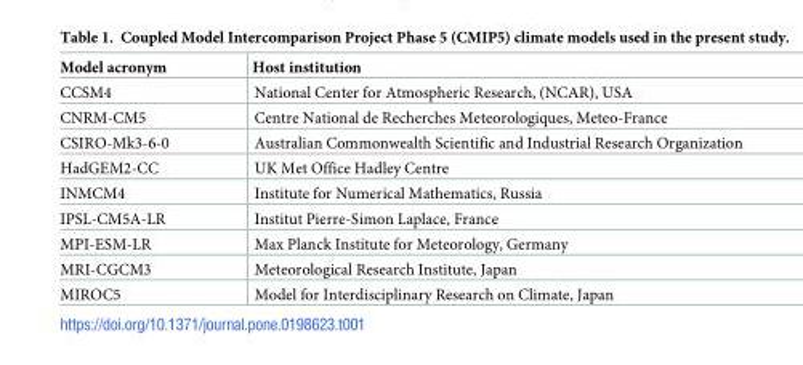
<table><thead><tr><td>Model acronym</td><td>Host institution</td></tr></thead><tbody><tr><td>CCSM4</td><td>National Center for Atmospheric Research, (NCAR), USA</td></tr><tr><td>CNRM-CM5</td><td>Centre National de Recherches Meteorologiques, Meteo-France</td></tr><tr><td>CSIRO-Mk3-6-0</td><td>Australian Commonwealth Scientific and Industrial Research Organization</td></tr><tr><td>HadGEM2-CC</td><td>UK Met Office Hadley Centre</td></tr><tr><td>INMCM4</td><td>Institute for Numerical Mathematics, Russia</td></tr><tr><td>IPSL-CM5A-LR</td><td>Institut Pierre-Simon Laplace, France</td></tr><tr><td>MPI-ESM-LR</td><td>Max Planck Institute for Meteorology, Germany</td></tr><tr><td>MRI-CGCM3</td><td>Meteorological Research Institute, Japan</td></tr><tr><td>MIROC5</td><td>Model for Interdisciplinary Research on Climate, Japan</td></tr></tbody></table>